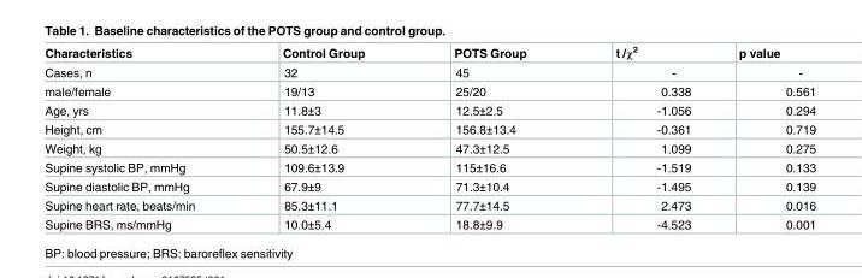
<table><thead><tr><td>Characteristics</td><td>Control Group</td><td>POTS Group</td><td>t /χ<sup>2</sup></td><td>p value</td></tr></thead><tbody><tr><td>Cases, n</td><td>32</td><td>45</td><td>-</td><td>-</td></tr><tr><td>male/female</td><td>19/13</td><td>25/20</td><td>0.338</td><td>0.561</td></tr><tr><td>Age, yrs</td><td>11.8±3</td><td>12.5±2.5</td><td>-1.056</td><td>0.294</td></tr><tr><td>Height, cm</td><td>155.7±14.5</td><td>156.8±13.4</td><td>-0.361</td><td>0.719</td></tr><tr><td>Weight, kg</td><td>50.5±12.6</td><td>47.3±12.5</td><td>1.099</td><td>0.275</td></tr><tr><td>Supine systolic BP, mmHg</td><td>109.6±13.9</td><td>115±16.6</td><td>-1.519</td><td>0.133</td></tr><tr><td>Supine diastolic BP, mmHg</td><td>67.9±9</td><td>71.3±10.4</td><td>-1.495</td><td>0.139</td></tr><tr><td>Supine heart rate, beats/min</td><td>85.3±11.1</td><td>77.7±14.5</td><td>2.473</td><td>0.016</td></tr><tr><td>Supine BRS, ms/mmHg</td><td>10.0±5.4</td><td>18.8±9.9</td><td>-4.523</td><td>0.001</td></tr></tbody></table>